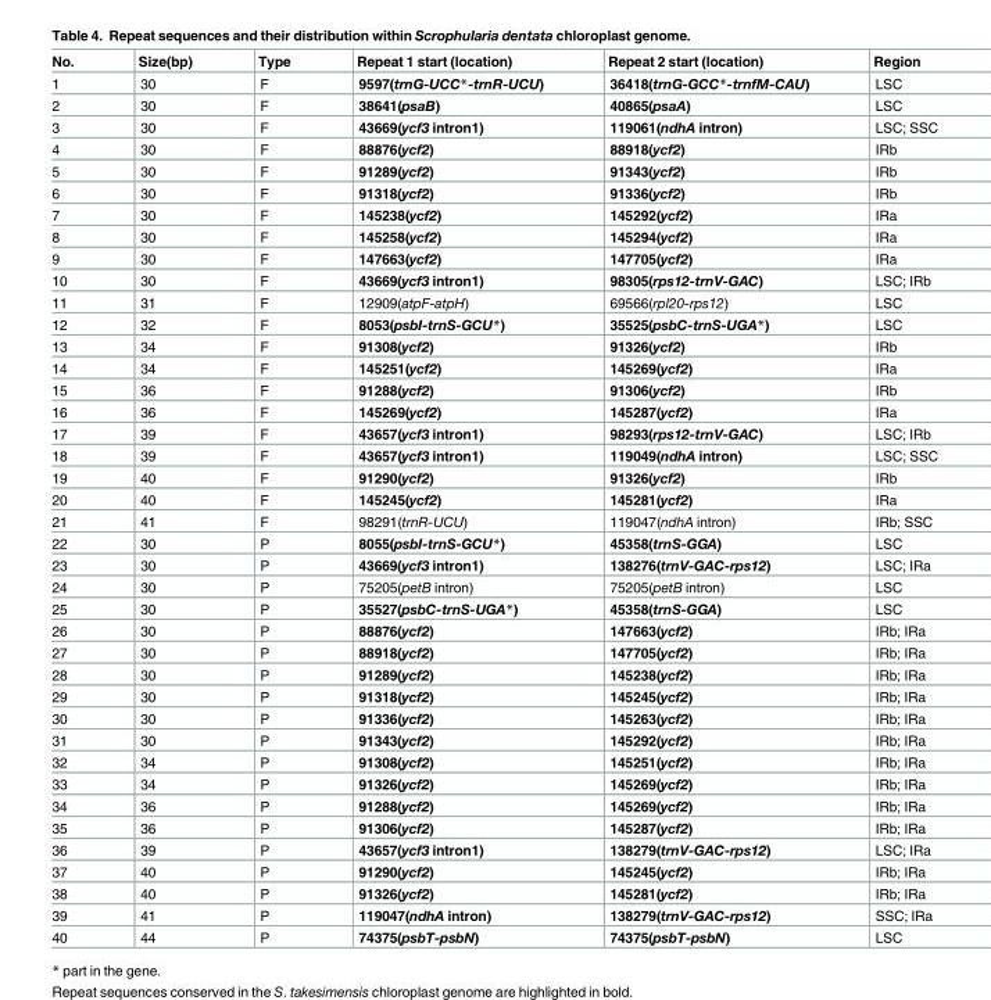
<table><thead><tr><td>No.</td><td>Size(bp)</td><td>Type</td><td>Repeat 1 start (location)</td><td>Repeat 2 start (location)</td><td>Region</td></tr></thead><tbody><tr><td>1</td><td>30</td><td>F</td><td>9597(trnG-UCC*-trnR-UCU)</td><td>36418(trnG-GCC*-trnfM-CAU)</td><td>LSC</td></tr><tr><td>2</td><td>30</td><td>F</td><td>38641(psaB)</td><td>40865(psaA)</td><td>LSC</td></tr><tr><td>3</td><td>30</td><td>F</td><td>43669(ycf3 intron1)</td><td>119061(ndhA intron)</td><td>LSC; SSC</td></tr><tr><td>4</td><td>30</td><td>F</td><td>88876(ycf2)</td><td>88918(ycf2)</td><td>IRb</td></tr><tr><td>5</td><td>30</td><td>F</td><td>91289(ycf2)</td><td>91343(ycf2)</td><td>IRb</td></tr><tr><td>6</td><td>30</td><td>F</td><td>91318(ycf2)</td><td>91336(ycf2)</td><td>IRb</td></tr><tr><td>7</td><td>30</td><td>F</td><td>145238(ycf2)</td><td>145292(ycf2)</td><td>IRa</td></tr><tr><td>8</td><td>30</td><td>F</td><td>145258(ycf2)</td><td>145294(ycf2)</td><td>IRa</td></tr><tr><td>9</td><td>30</td><td>F</td><td>147663(ycf2)</td><td>147705(ycf2)</td><td>IRa</td></tr><tr><td>10</td><td>30</td><td>F</td><td>43669(ycf3 intron1)</td><td>98305(rps12-trnV-GAC)</td><td>LSC; IRb</td></tr><tr><td>11</td><td>31</td><td>F</td><td>12909(atpF-atpH)</td><td>69566(rpl20-rps12)</td><td>LSC</td></tr><tr><td>12</td><td>32</td><td>F</td><td>8053(psbI-trnS-GCU*)</td><td>35525(psbC-trnS-UGA*)</td><td>LSC</td></tr><tr><td>13</td><td>34</td><td>F</td><td>91308(ycf2)</td><td>91326(ycf2)</td><td>IRb</td></tr><tr><td>14</td><td>34</td><td>F</td><td>145251(ycf2)</td><td>145269(ycf2)</td><td>IRa</td></tr><tr><td>15</td><td>36</td><td>F</td><td>91288(ycf2)</td><td>91306(ycf2)</td><td>IRb</td></tr><tr><td>16</td><td>36</td><td>F</td><td>145269(ycf2)</td><td>145287(ycf2)</td><td>IRa</td></tr><tr><td>17</td><td>39</td><td>F</td><td>43657(ycf3 intron1)</td><td>98293(rps12-trnV-GAC)</td><td>LSC; IRb</td></tr><tr><td>18</td><td>39</td><td>F</td><td>43657(ycf3 intron1)</td><td>119049(ndhA intron)</td><td>LSC; SSC</td></tr><tr><td>19</td><td>40</td><td>F</td><td>91290(ycf2)</td><td>91326(ycf2)</td><td>IRb</td></tr><tr><td>20</td><td>40</td><td>F</td><td>145245(ycf2)</td><td>145281(ycf2)</td><td>IRa</td></tr><tr><td>21</td><td>41</td><td>F</td><td>98291(trnR-UCU)</td><td>119047(ndhA intron)</td><td>IRb; SSC</td></tr><tr><td>22</td><td>30</td><td>P</td><td>8055(psbI-trnS-GCU*)</td><td>45358(trnS-GGA)</td><td>LSC</td></tr><tr><td>23</td><td>30</td><td>P</td><td>43669(ycf3 intron1)</td><td>138276(trnV-GAC-rps12)</td><td>LSC; IRa</td></tr><tr><td>24</td><td>30</td><td>P</td><td>75205(petB intron)</td><td>75205(petB intron)</td><td>LSC</td></tr><tr><td>25</td><td>30</td><td>P</td><td>35527(psbC-trnS-UGA*)</td><td>45358(trnS-GGA)</td><td>LSC</td></tr><tr><td>26</td><td>30</td><td>P</td><td>88876(ycf2)</td><td>147663(ycf2)</td><td>IRb; IRa</td></tr><tr><td>27</td><td>30</td><td>P</td><td>88918(ycf2)</td><td>147705(ycf2)</td><td>IRb; IRa</td></tr><tr><td>28</td><td>30</td><td>P</td><td>91289(ycf2)</td><td>145238(ycf2)</td><td>IRb; IRa</td></tr><tr><td>29</td><td>30</td><td>P</td><td>91318(ycf2)</td><td>145245(ycf2)</td><td>IRb; IRa</td></tr><tr><td>30</td><td>30</td><td>P</td><td>91336(ycf2)</td><td>145263(ycf2)</td><td>IRb; IRa</td></tr><tr><td>31</td><td>30</td><td>P</td><td>91343(ycf2)</td><td>145292(ycf2)</td><td>IRb; IRa</td></tr><tr><td>32</td><td>34</td><td>P</td><td>91308(ycf2)</td><td>145251(ycf2)</td><td>IRb; IRa</td></tr><tr><td>33</td><td>34</td><td>P</td><td>91326(ycf2)</td><td>145269(ycf2)</td><td>IRb; IRa</td></tr><tr><td>34</td><td>36</td><td>P</td><td>91288(ycf2)</td><td>145269(ycf2)</td><td>IRb; IRa</td></tr><tr><td>35</td><td>36</td><td>P</td><td>91306(ycf2)</td><td>145287(ycf2)</td><td>IRb; IRa</td></tr><tr><td>36</td><td>39</td><td>P</td><td>43657(ycf3 intron1)</td><td>138279(trnV-GAC-rps12)</td><td>LSC; IRa</td></tr><tr><td>37</td><td>40</td><td>P</td><td>91290(ycf2)</td><td>145245(ycf2)</td><td>IRb; IRa</td></tr><tr><td>38</td><td>40</td><td>P</td><td>91326(ycf2)</td><td>145281(ycf2)</td><td>IRb; IRa</td></tr><tr><td>39</td><td>41</td><td>P</td><td>119047(ndhA intron)</td><td>138279(trnV-GAC-rps12)</td><td>SSC; IRa</td></tr><tr><td>40</td><td>44</td><td>P</td><td>74375(psbT-psbN)</td><td>74375(psbT-psbN)</td><td>LSC</td></tr></tbody></table>